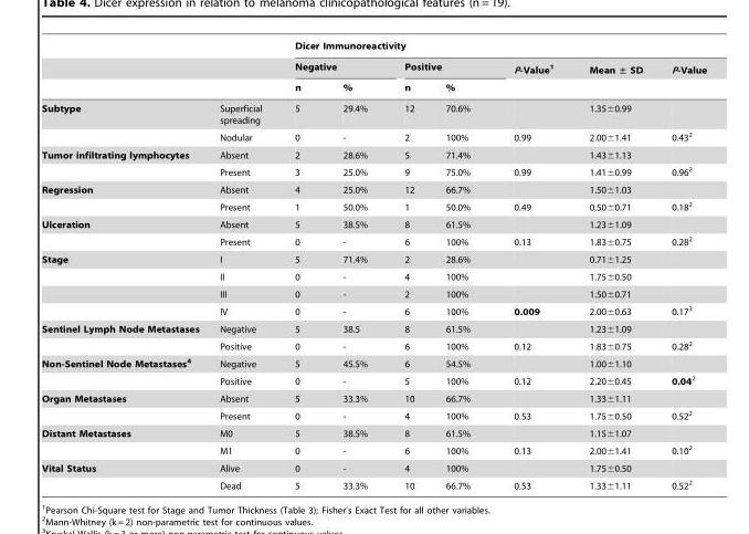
<table><thead><tr><td rowspan="3"></td><td rowspan="3"></td><td colspan="7">Dicer Immunoreactivity</td></tr><tr><td colspan="2">Negative</td><td colspan="2">Positive</td><td rowspan="2">P-Value<sup>1</sup></td><td rowspan="2">Mean ± SD</td><td rowspan="2">P-Value</td></tr><tr><td>n</td><td>%</td><td>n</td><td>%</td></tr></thead><tbody><tr><td rowspan="2">Subtype</td><td>Superficial spreading</td><td>5</td><td>29.4%</td><td>12</td><td>70.6%</td><td></td><td>1.35±0.99</td><td></td></tr><tr><td>Nodular</td><td>0</td><td>-</td><td>2</td><td>100%</td><td>0.99</td><td>2.00±1.41</td><td>0.43<sup>2</sup></td></tr><tr><td rowspan="2">Tumor infiltrating lymphocytes</td><td>Absent</td><td>2</td><td>28.6%</td><td>5</td><td>71.4%</td><td></td><td>1.43±1.13</td><td></td></tr><tr><td>Present</td><td>3</td><td>25.0%</td><td>9</td><td>75.0%</td><td>0.99</td><td>1.41±0.99</td><td>0.96<sup>2</sup></td></tr><tr><td rowspan="2">Regression</td><td>Absent</td><td>4</td><td>25.0%</td><td>12</td><td>66.7%</td><td></td><td>1.50±1.03</td><td></td></tr><tr><td>Present</td><td>1</td><td>50.0%</td><td>1</td><td>50.0%</td><td>0.49</td><td>0.50±0.71</td><td>0.18<sup>2</sup></td></tr><tr><td rowspan="2">Ulceration</td><td>Absent</td><td>5</td><td>38.5%</td><td>8</td><td>61.5%</td><td></td><td>1.23±1.09</td><td></td></tr><tr><td>Present</td><td>0</td><td>-</td><td>6</td><td>100%</td><td>0.13</td><td>1.83±0.75</td><td>0.28<sup>2</sup></td></tr><tr><td rowspan="4">Stage</td><td>I</td><td>5</td><td>71.4%</td><td>2</td><td>28.6%</td><td></td><td>0.71±1.25</td><td></td></tr><tr><td>II</td><td>0</td><td>-</td><td>4</td><td>100%</td><td></td><td>1.75±0.50</td><td></td></tr><tr><td>III</td><td>0</td><td>-</td><td>2</td><td>100%</td><td></td><td>1.50±0.71</td><td></td></tr><tr><td>IV</td><td>0</td><td>-</td><td>6</td><td>100%</td><td>0.009</td><td>2.00±0.63</td><td>0.17<sup>3</sup></td></tr><tr><td rowspan="2">Sentinel Lymph Node Metastases</td><td>Negative</td><td>5</td><td>38.5</td><td>8</td><td>61.5%</td><td></td><td>1.23±1.09</td><td></td></tr><tr><td>Positive</td><td>0</td><td>-</td><td>6</td><td>100%</td><td>0.12</td><td>1.83±0.75</td><td>0.28<sup>2</sup></td></tr><tr><td rowspan="2">Non-Sentinel Node Metastases4</td><td>Negative</td><td>5</td><td>45.5%</td><td>6</td><td>54.5%</td><td></td><td>1.00±1.10</td><td></td></tr><tr><td>Positive</td><td>0</td><td>-</td><td>5</td><td>100%</td><td>0.12</td><td>2.20±0.45</td><td>0.042</td></tr><tr><td rowspan="2">Organ Metastases</td><td>Absent</td><td>5</td><td>33.3%</td><td>10</td><td>66.7%</td><td></td><td>1.33±1.11</td><td></td></tr><tr><td>Present</td><td>0</td><td>-</td><td>4</td><td>100%</td><td>0.53</td><td>1.75±0.50</td><td>0.52<sup>2</sup></td></tr><tr><td rowspan="2">Distant Metastases</td><td>M0</td><td>5</td><td>38.5%</td><td>8</td><td>61.5%</td><td></td><td>1.15±1.07</td><td></td></tr><tr><td>M1</td><td>0</td><td>-</td><td>6</td><td>100%</td><td>0.13</td><td>2.00±1.41</td><td>0.10<sup>2</sup></td></tr><tr><td rowspan="2">Vital Status</td><td>Alive</td><td>0</td><td>-</td><td>4</td><td>100%</td><td></td><td>1.75±0.50</td><td></td></tr><tr><td>Dead</td><td>5</td><td>33.3%</td><td>10</td><td>66.7%</td><td>0.53</td><td>1.33±1.11</td><td>0.52<sup>2</sup></td></tr></tbody></table>